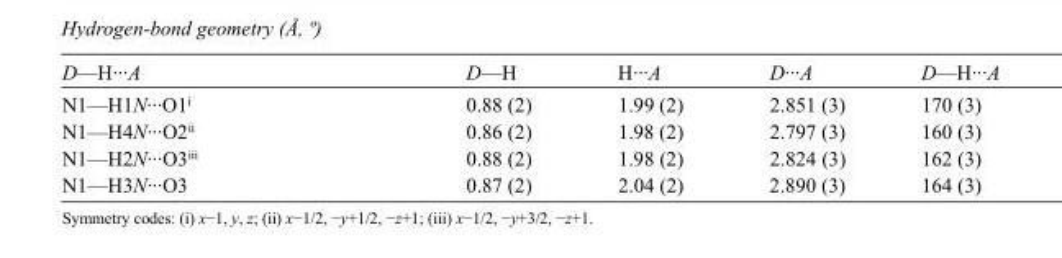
<table><tbody><tr><td>D—H···A</td><td>D—H</td><td>H···A</td><td>D···A</td><td>D—H···A</td></tr><tr><td>N1—H1N···O1<sup>i</sup></td><td>0.88 (2)</td><td>1.99 (2)</td><td>2.851 (3)</td><td>170 (3)</td></tr><tr><td>N1—H4N···O2<sup>ii</sup></td><td>0.86 (2)</td><td>1.98 (2)</td><td>2.797 (3)</td><td>160 (3)</td></tr><tr><td>N1—H2N···O3<sup>iii</sup></td><td>0.88 (2)</td><td>1.98 (2)</td><td>2.824 (3)</td><td>162 (3)</td></tr><tr><td>N1—H3N···O3</td><td>0.87 (2)</td><td>2.04 (2)</td><td>2.890 (3)</td><td>164 (3)</td></tr></tbody></table>